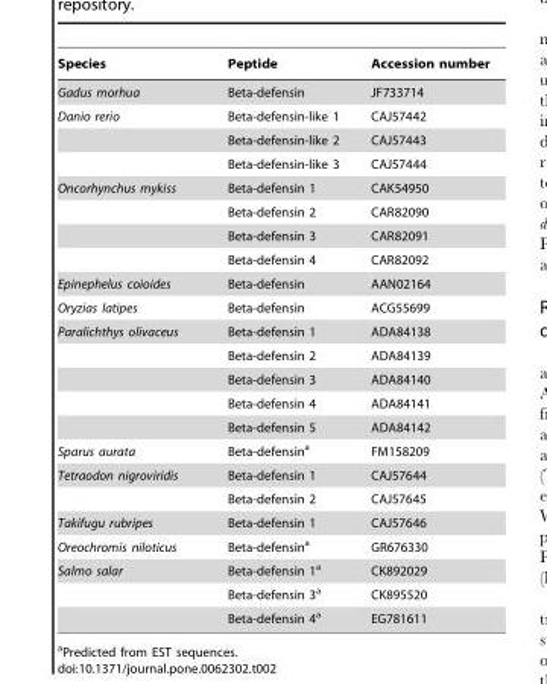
<table><thead><tr><td>Species</td><td>Peptide</td><td>Accession number</td></tr></thead><tbody><tr><td>Gadus morhua</td><td>Beta-defensin</td><td>JF733714</td></tr><tr><td rowspan="3">Danio rerio</td><td>Beta-defensin-like 1</td><td>CAJ57442</td></tr><tr><td>Beta-defensin-like 2</td><td>CAJ57443</td></tr><tr><td>Beta-defensin-like 3</td><td>CAJ57444</td></tr><tr><td rowspan="4">Oncorhynchus mykiss</td><td>Beta-defensin 1</td><td>CAK54950</td></tr><tr><td>Beta-defensin 2</td><td>CAR82090</td></tr><tr><td>Beta-defensin 3</td><td>CAR82091</td></tr><tr><td>Beta-defensin 4</td><td>CAR82092</td></tr><tr><td>Epinephelus coioides</td><td>Beta-defensin</td><td>AAN02164</td></tr><tr><td>Oryzias latipes</td><td>Beta-defensin</td><td>ACG55699</td></tr><tr><td rowspan="5">Paralichthys olivaceus</td><td>Beta-defensin 1</td><td>ADA84138</td></tr><tr><td>Beta-defensin 2</td><td>ADA84139</td></tr><tr><td>Beta-defensin 3</td><td>ADA84140</td></tr><tr><td>Beta-defensin 4</td><td>ADA84141</td></tr><tr><td>Beta-defensin 5</td><td>ADA84142</td></tr><tr><td>Sparus aurata</td><td>Beta-defensin<sup>a</sup></td><td>FM158209</td></tr><tr><td rowspan="2">Tetraodon nigroviridis</td><td>Beta-defensin 1</td><td>CAJ57644</td></tr><tr><td>Beta-defensin 2</td><td>CAJ57645</td></tr><tr><td>Takifugu rubripes</td><td>Beta-defensin 1</td><td>CAJ57646</td></tr><tr><td>Oreochromis niloticus</td><td>Beta-defensin<sup>a</sup></td><td>GR676330</td></tr><tr><td rowspan="3">Salmo salar</td><td>Beta-defensin 1<sup>a</sup></td><td>CK892029</td></tr><tr><td>Beta-defensin 3<sup>a</sup></td><td>CK895520</td></tr><tr><td>Beta-defensin 4<sup>a</sup></td><td>EG781611</td></tr></tbody></table>